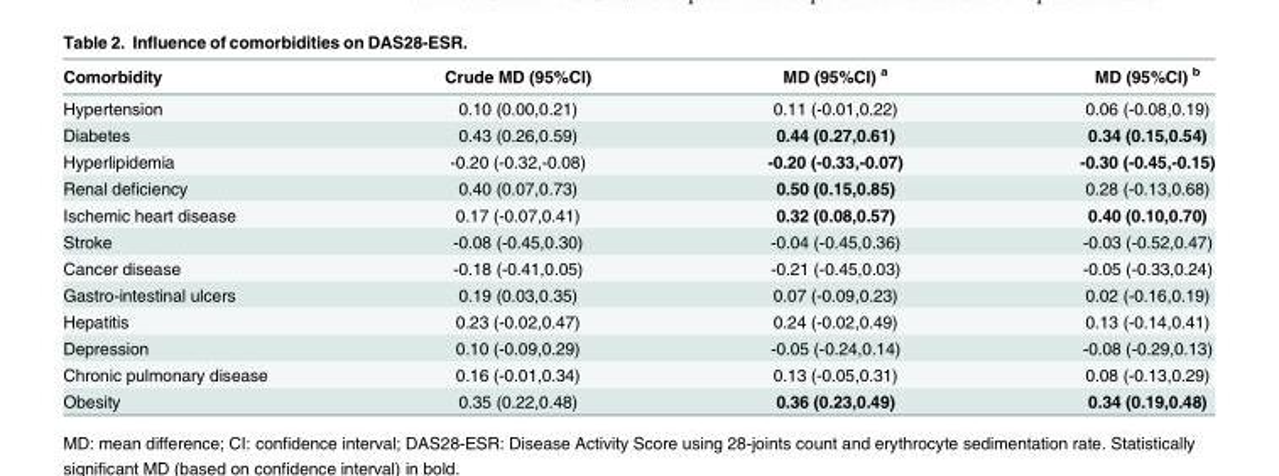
<table><thead><tr><td>Comorbidity</td><td>Crude MD (95%CI)</td><td>MD (95%CI) <sup>a</sup></td><td>MD (95%CI) <sup>b</sup></td></tr></thead><tbody><tr><td>Hypertension</td><td>0.10 (0.00,0.21)</td><td>0.11 (-0.01,0.22)</td><td>0.06 (-0.08,0.19)</td></tr><tr><td>Diabetes</td><td>0.43 (0.26,0.59)</td><td>0.44 (0.27,0.61)</td><td>0.34 (0.15,0.54)</td></tr><tr><td>Hyperlipidemia</td><td>-0.20 (-0.32,-0.08)</td><td>-0.20 (-0.33,-0.07)</td><td>-0.30 (-0.45,-0.15)</td></tr><tr><td>Renal deficiency</td><td>0.40 (0.07,0.73)</td><td>0.50 (0.15,0.85)</td><td>0.28 (-0.13,0.68)</td></tr><tr><td>Ischemic heart disease</td><td>0.17 (-0.07,0.41)</td><td>0.32 (0.08,0.57)</td><td>0.40 (0.10,0.70)</td></tr><tr><td>Stroke</td><td>-0.08 (-0.45,0.30)</td><td>-0.04 (-0.45,0.36)</td><td>-0.03 (-0.52,0.47)</td></tr><tr><td>Cancer disease</td><td>-0.18 (-0.41,0.05)</td><td>-0.21 (-0.45,0.03)</td><td>-0.05 (-0.33,0.24)</td></tr><tr><td>Gastro-intestinal ulcers</td><td>0.19 (0.03,0.35)</td><td>0.07 (-0.09,0.23)</td><td>0.02 (-0.16,0.19)</td></tr><tr><td>Hepatitis</td><td>0.23 (-0.02,0.47)</td><td>0.24 (-0.02,0.49)</td><td>0.13 (-0.14,0.41)</td></tr><tr><td>Depression</td><td>0.10 (-0.09,0.29)</td><td>-0.05 (-0.24,0.14)</td><td>-0.08 (-0.29,0.13)</td></tr><tr><td>Chronic pulmonary disease</td><td>0.16 (-0.01,0.34)</td><td>0.13 (-0.05,0.31)</td><td>0.08 (-0.13,0.29)</td></tr><tr><td>Obesity</td><td>0.35 (0.22,0.48)</td><td>0.36 (0.23,0.49)</td><td>0.34 (0.19,0.48)</td></tr></tbody></table>